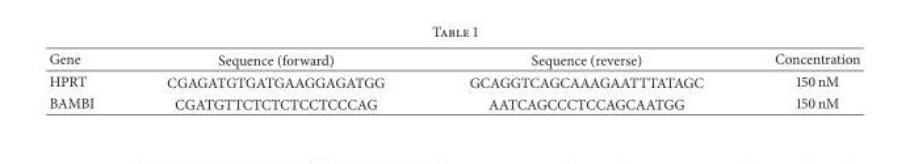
<table><thead><tr><td>Gene</td><td>Sequence (forward)</td><td>Sequence (reverse)</td><td>Concentration</td></tr></thead><tbody><tr><td>HPRT</td><td>CGAGATGTGATGAAGGAGATGG</td><td>GCAGGTCAGCAAAGAATTTATAGC</td><td>150 nM</td></tr><tr><td>BAMBI</td><td>CGATGTTCTCTCTCCTCCCAG</td><td>AATCAGCCCTCCAGCAATGG</td><td>150 nM</td></tr></tbody></table>